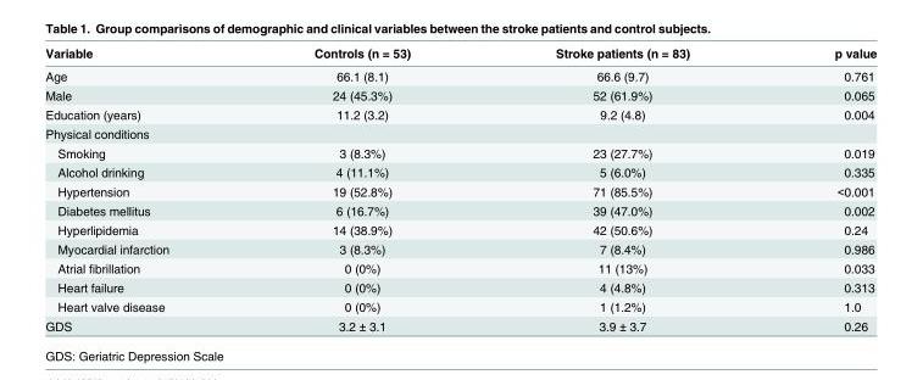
<table><thead><tr><td>Variable</td><td>Controls (n = 53)</td><td>Stroke patients (n = 83)</td><td>p value</td></tr></thead><tbody><tr><td>Age</td><td>66.1 (8.1)</td><td>66.6 (9.7)</td><td>0.761</td></tr><tr><td>Male</td><td>24 (45.3%)</td><td>52 (61.9%)</td><td>0.065</td></tr><tr><td>Education (years)</td><td>11.2 (3.2)</td><td>9.2 (4.8)</td><td>0.004</td></tr><tr><td colspan="4">Physical conditions</td></tr><tr><td>Smoking</td><td>3 (8.3%)</td><td>23 (27.7%)</td><td>0.019</td></tr><tr><td>Alcohol drinking</td><td>4 (11.1%)</td><td>5 (6.0%)</td><td>0.335</td></tr><tr><td>Hypertension</td><td>19 (52.8%)</td><td>71 (85.5%)</td><td>&lt;0.001</td></tr><tr><td>Diabetes mellitus</td><td>6 (16.7%)</td><td>39 (47.0%)</td><td>0.002</td></tr><tr><td>Hyperlipidemia</td><td>14 (38.9%)</td><td>42 (50.6%)</td><td>0.24</td></tr><tr><td>Myocardial infarction</td><td>3 (8.3%)</td><td>7 (8.4%)</td><td>0.986</td></tr><tr><td>Atrial fibrillation</td><td>0 (0%)</td><td>11 (13%)</td><td>0.033</td></tr><tr><td>Heart failure</td><td>0 (0%)</td><td>4 (4.8%)</td><td>0.313</td></tr><tr><td>Heart valve disease</td><td>0 (0%)</td><td>1 (1.2%)</td><td>1.0</td></tr><tr><td>GDS</td><td>3.2 ± 3.1</td><td>3.9 ± 3.7</td><td>0.26</td></tr></tbody></table>